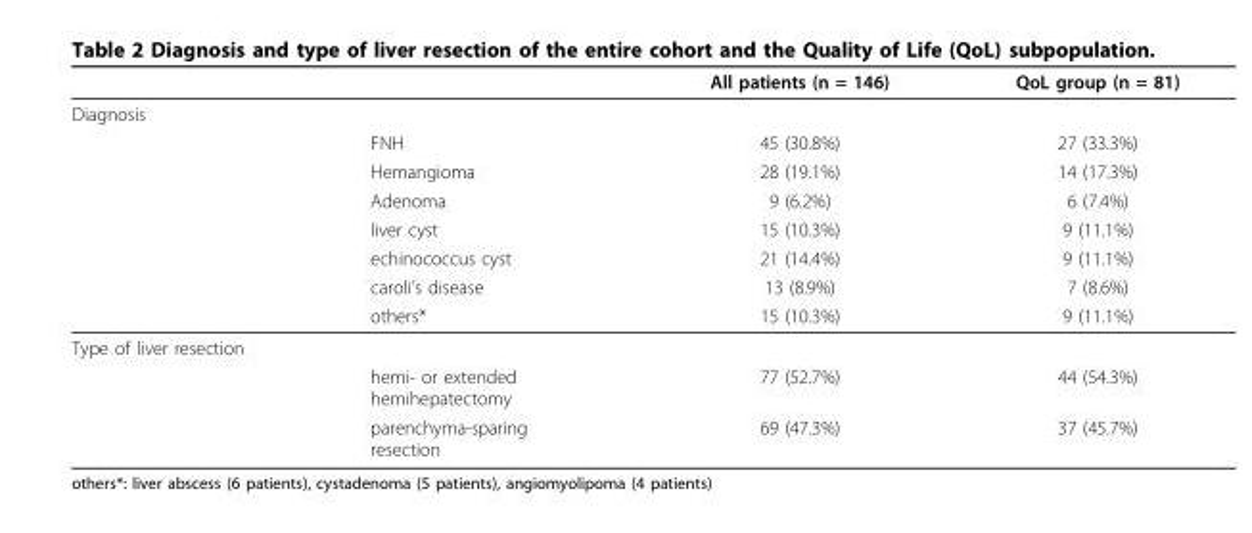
<table><thead><tr><td></td><td></td><td>All patients (n = 146)</td><td>QoL group (n = 81)</td></tr></thead><tbody><tr><td colspan="4">Diagnosis</td></tr><tr><td></td><td>FNH</td><td>45 (30.8%)</td><td>27 (33.3%)</td></tr><tr><td></td><td>Hemangioma</td><td>28 (19.1%)</td><td>14 (17.3%)</td></tr><tr><td></td><td>Adenoma</td><td>9 (6.2%)</td><td>6 (7.4%)</td></tr><tr><td></td><td>liver cyst</td><td>15 (10.3%)</td><td>9 (11.1%)</td></tr><tr><td></td><td>echinococcus cyst</td><td>21 (14.4%)</td><td>9 (11.1%)</td></tr><tr><td></td><td>caroli’s disease</td><td>13 (8.9%)</td><td>7 (8.6%)</td></tr><tr><td></td><td>others*</td><td>15 (10.3%)</td><td>9 (11.1%)</td></tr><tr><td colspan="4">Type of liver resection</td></tr><tr><td></td><td>hemi- or extended hemihepatectomy</td><td>77 (52.7%)</td><td>44 (54.3%)</td></tr><tr><td></td><td>parenchyma-sparing resection</td><td>69 (47.3%)</td><td>37 (45.7%)</td></tr></tbody></table>